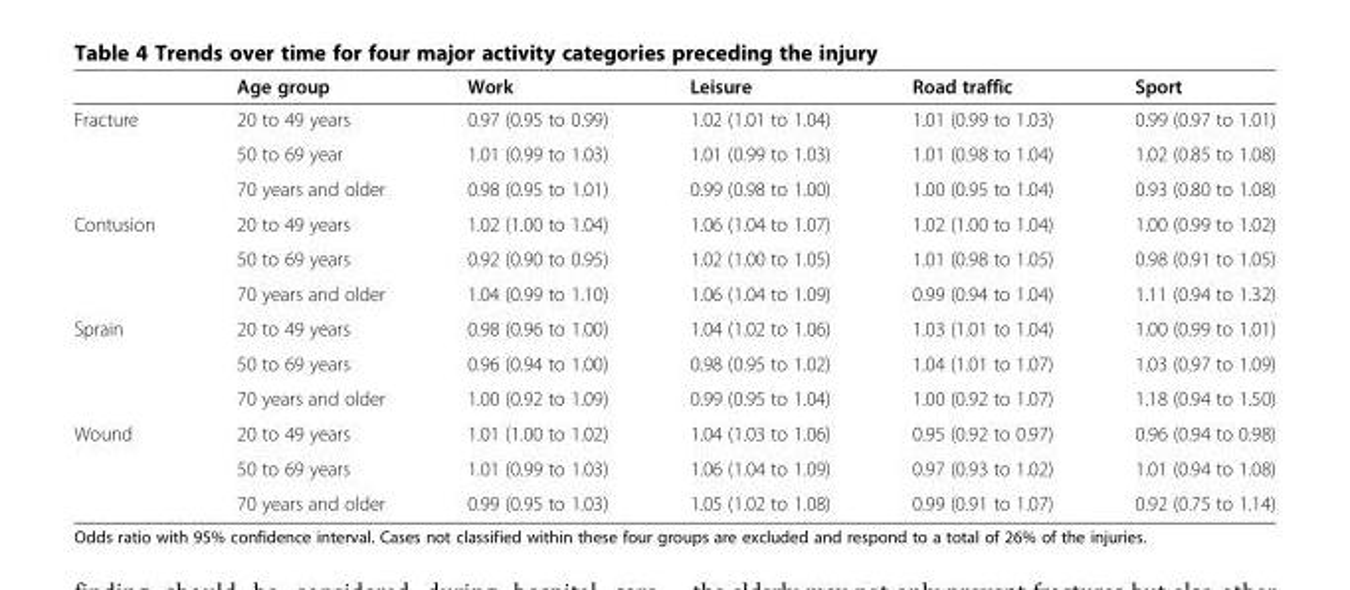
<table><thead><tr><td></td><td>Age group</td><td>Work</td><td>Leisure</td><td>Road traffic</td><td>Sport</td></tr></thead><tbody><tr><td rowspan="3">Fracture</td><td>20 to 49 years</td><td>0.97 (0.95 to 0.99)</td><td>1.02 (1.01 to 1.04)</td><td>1.01 (0.99 to 1.03)</td><td>0.99 (0.97 to 1.01)</td></tr><tr><td>50 to 69 year</td><td>1.01 (0.99 to 1.03)</td><td>1.01 (0.99 to 1.03)</td><td>1.01 (0.98 to 1.04)</td><td>1.02 (0.85 to 1.08)</td></tr><tr><td>70 years and older</td><td>0.98 (0.95 to 1.01)</td><td>0.99 (0.98 to 1.00)</td><td>1.00 (0.95 to 1.04)</td><td>0.93 (0.80 to 1.08)</td></tr><tr><td rowspan="3">Contusion</td><td>20 to 49 years</td><td>1.02 (1.00 to 1.04)</td><td>1.06 (1.04 to 1.07)</td><td>1.02 (1.00 to 1.04)</td><td>1.00 (0.99 to 1.02)</td></tr><tr><td>50 to 69 years</td><td>0.92 (0.90 to 0.95)</td><td>1.02 (1.00 to 1.05)</td><td>1.01 (0.98 to 1.05)</td><td>0.98 (0.91 to 1.05)</td></tr><tr><td>70 years and older</td><td>1.04 (0.99 to 1.10)</td><td>1.06 (1.04 to 1.09)</td><td>0.99 (0.94 to 1.04)</td><td>1.11 (0.94 to 1.32)</td></tr><tr><td rowspan="3">Sprain</td><td>20 to 49 years</td><td>0.98 (0.96 to 1.00)</td><td>1.04 (1.02 to 1.06)</td><td>1.03 (1.01 to 1.04)</td><td>1.00 (0.99 to 1.01)</td></tr><tr><td>50 to 69 years</td><td>0.96 (0.94 to 1.00)</td><td>0.98 (0.95 to 1.02)</td><td>1.04 (1.01 to 1.07)</td><td>1.03 (0.97 to 1.09)</td></tr><tr><td>70 years and older</td><td>1.00 (0.92 to 1.09)</td><td>0.99 (0.95 to 1.04)</td><td>1.00 (0.92 to 1.07)</td><td>1.18 (0.94 to 1.50)</td></tr><tr><td rowspan="3">Wound</td><td>20 to 49 years</td><td>1.01 (1.00 to 1.02)</td><td>1.04 (1.03 to 1.06)</td><td>0.95 (0.92 to 0.97)</td><td>0.96 (0.94 to 0.98)</td></tr><tr><td>50 to 69 years</td><td>1.01 (0.99 to 1.03)</td><td>1.06 (1.04 to 1.09)</td><td>0.97 (0.93 to 1.02)</td><td>1.01 (0.94 to 1.08)</td></tr><tr><td>70 years and older</td><td>0.99 (0.95 to 1.03)</td><td>1.05 (1.02 to 1.08)</td><td>0.99 (0.91 to 1.07)</td><td>0.92 (0.75 to 1.14)</td></tr></tbody></table>